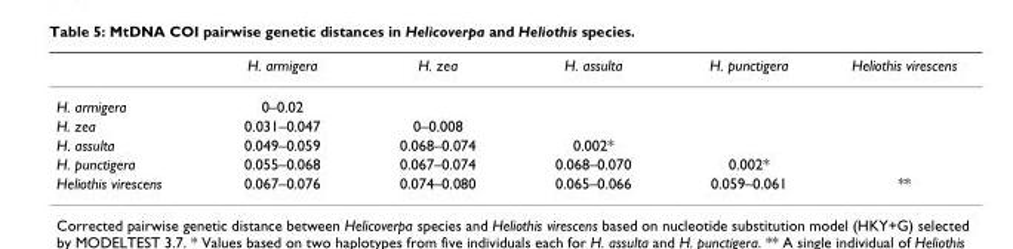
<table><thead><tr><td></td><td>H. armigera</td><td>H. zea</td><td>H. assulta</td><td>H. punctigera</td><td>Heliothis virescens</td></tr></thead><tbody><tr><td>H. armigera</td><td>0–0.02</td><td></td><td></td><td></td><td></td></tr><tr><td>H. zea</td><td>0.031–0.047</td><td>0–0.008</td><td></td><td></td><td></td></tr><tr><td>H. assulta</td><td>0.049–0.059</td><td>0.068–0.074</td><td>0.002*</td><td></td><td></td></tr><tr><td>H. punctigera</td><td>0.055–0.068</td><td>0.067–0.074</td><td>0.068–0.070</td><td>0.002*</td><td></td></tr><tr><td>Heliothis virescens</td><td>0.067–0.076</td><td>0.074–0.080</td><td>0.065–0.066</td><td>0.059–0.061</td><td>**</td></tr></tbody></table>